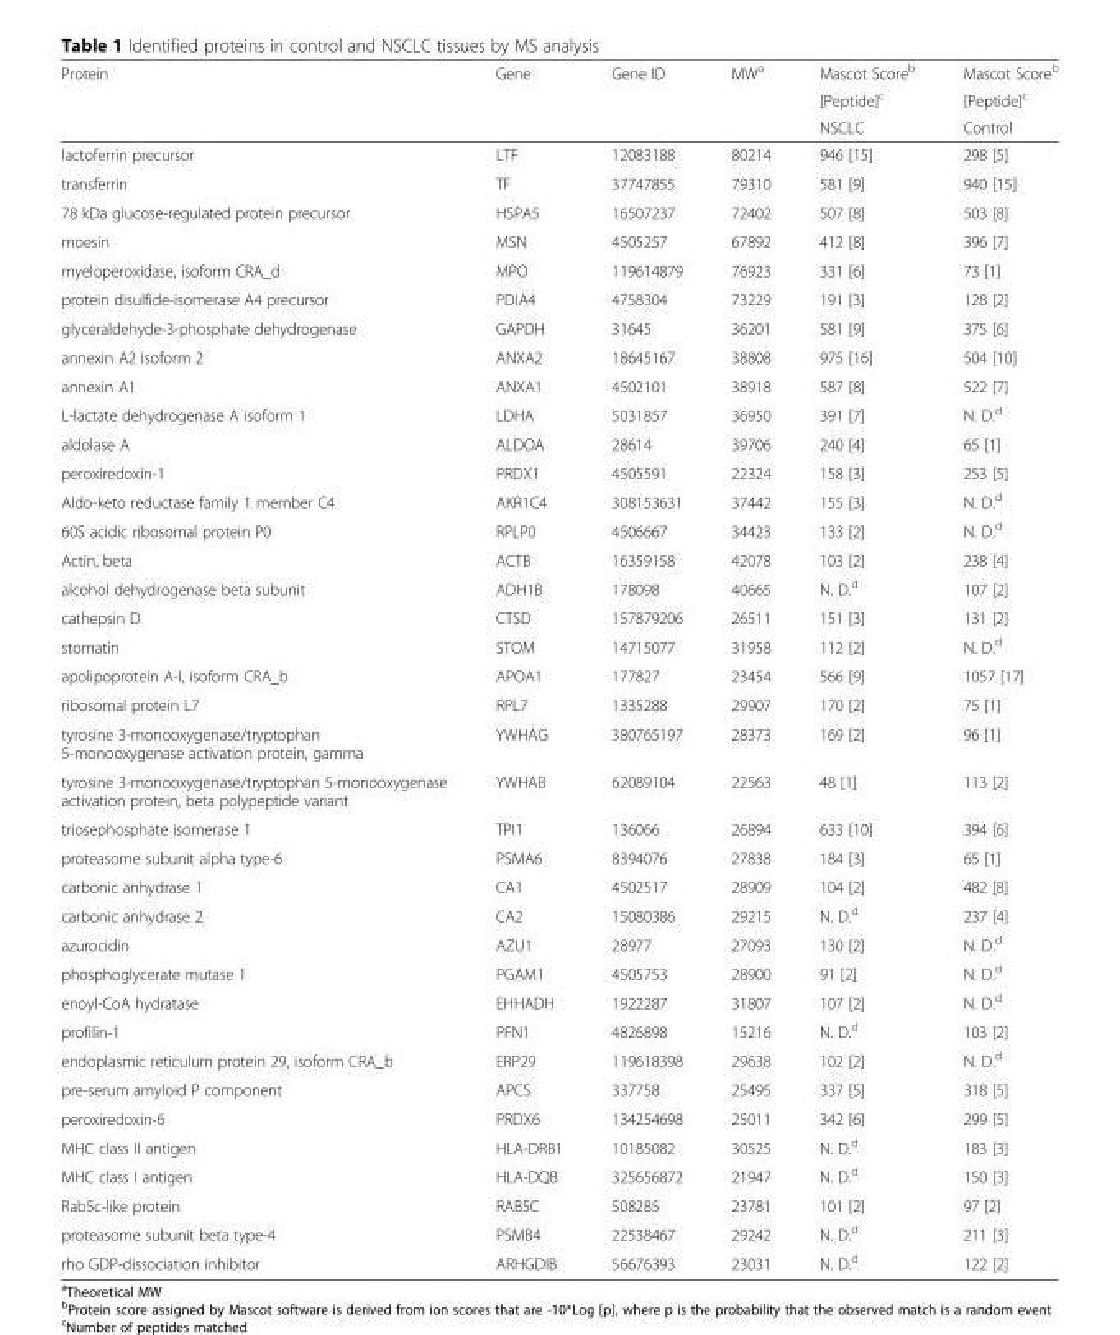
<table><thead><tr><td rowspan="3">Protein</td><td rowspan="3">Gene</td><td rowspan="3">Gene ID</td><td rowspan="3">MW<sup>a</sup></td><td rowspan="3">Mascot Score<sup>b</sup> [Peptide]<sup>c</sup> NSCLC</td><td rowspan="3">Mascot Score<sup>b</sup> [Peptide]<sup>c</sup> Control</td></tr><tr></tr><tr></tr></thead><tbody><tr><td>lactoferrin precursor</td><td>LTF</td><td>12083188</td><td>80214</td><td>946 [15]</td><td>298 [5]</td></tr><tr><td>transferrin</td><td>TF</td><td>37747855</td><td>79310</td><td>581 [9]</td><td>940 [15]</td></tr><tr><td>78 kDa glucose-regulated protein precursor</td><td>HSPA5</td><td>16507237</td><td>72402</td><td>507 [8]</td><td>503 [8]</td></tr><tr><td>moesin</td><td>MSN</td><td>4505257</td><td>67892</td><td>412 [8]</td><td>396 [7]</td></tr><tr><td>myeloperoxidase, isoform CRA_d</td><td>MPO</td><td>119614879</td><td>76923</td><td>331 [6]</td><td>73 [1]</td></tr><tr><td>protein disulfide-isomerase A4 precursor</td><td>PDIA4</td><td>4758304</td><td>73229</td><td>191 [3]</td><td>128 [2]</td></tr><tr><td>glyceraldehyde-3-phosphate dehydrogenase</td><td>GAPDH</td><td>31645</td><td>36201</td><td>581 [9]</td><td>375 [6]</td></tr><tr><td>annexin A2 isoform 2</td><td>ANXA2</td><td>18645167</td><td>38808</td><td>975 [16]</td><td>504 [10]</td></tr><tr><td>annexin A1</td><td>ANXA1</td><td>4502101</td><td>38918</td><td>587 [8]</td><td>522 [7]</td></tr><tr><td>L-lactate dehydrogenase A isoform 1</td><td>LDHA</td><td>5031857</td><td>36950</td><td>391 [7]</td><td>N. D.<sup>d</sup></td></tr><tr><td>aldolase A</td><td>ALDOA</td><td>28614</td><td>39706</td><td>240 [4]</td><td>65 [1]</td></tr><tr><td>peroxiredoxin-1</td><td>PRDX1</td><td>4505591</td><td>22324</td><td>158 [3]</td><td>253 [5]</td></tr><tr><td>Aldo-keto reductase family 1 member C4</td><td>AKR1C4</td><td>308153631</td><td>37442</td><td>155 [3]</td><td>N. D.<sup>d</sup></td></tr><tr><td>60S acidic ribosomal protein P0</td><td>RPLP0</td><td>4506667</td><td>34423</td><td>133 [2]</td><td>N. D.<sup>d</sup></td></tr><tr><td>Actin, beta</td><td>ACTB</td><td>16359158</td><td>42078</td><td>103 [2]</td><td>238 [4]</td></tr><tr><td>alcohol dehydrogenase beta subunit</td><td>ADH1B</td><td>178098</td><td>40665</td><td>N. D.<sup>d</sup></td><td>107 [2]</td></tr><tr><td>cathepsin D</td><td>CTSD</td><td>157879206</td><td>26511</td><td>151 [3]</td><td>131 [2]</td></tr><tr><td>stomatin</td><td>STOM</td><td>14715077</td><td>31958</td><td>112 [2]</td><td>N. D.<sup>d</sup></td></tr><tr><td>apolipoprotein A-I, isoform CRA_b</td><td>APOA1</td><td>177827</td><td>23454</td><td>566 [9]</td><td>1057 [17]</td></tr><tr><td>ribosomal protein L7</td><td>RPL7</td><td>1335288</td><td>29907</td><td>170 [2]</td><td>75 [1]</td></tr><tr><td>tyrosine 3-monooxygenase/tryptophan 5-monooxygenase activation protein, gamma</td><td>YWHAG</td><td>380765197</td><td>28373</td><td>169 [2]</td><td>96 [1]</td></tr><tr><td>tyrosine 3-monooxygenase/tryptophan 5-monooxygenase activation protein, beta polypeptide variant</td><td>YWHAB</td><td>62089104</td><td>22563</td><td>48 [1]</td><td>113 [2]</td></tr><tr><td>triosephosphate isomerase 1</td><td>TPI1</td><td>136066</td><td>26894</td><td>633 [10]</td><td>394 [6]</td></tr><tr><td>proteasome subunit alpha type-6</td><td>PSMA6</td><td>8394076</td><td>27838</td><td>184 [3]</td><td>65 [1]</td></tr><tr><td>carbonic anhydrase 1</td><td>CA1</td><td>4502517</td><td>28909</td><td>104 [2]</td><td>482 [8]</td></tr><tr><td>carbonic anhydrase 2</td><td>CA2</td><td>15080386</td><td>29215</td><td>N. D.<sup>d</sup></td><td>237 [4]</td></tr><tr><td>azurocidin</td><td>AZU1</td><td>28977</td><td>27093</td><td>130 [2]</td><td>N. D.<sup>d</sup></td></tr><tr><td>phosphoglycerate mutase 1</td><td>PGAM1</td><td>4505753</td><td>28900</td><td>91 [2]</td><td>N. D.<sup>d</sup></td></tr><tr><td>enoyl-CoA hydratase</td><td>EHHADH</td><td>1922287</td><td>31807</td><td>107 [2]</td><td>N. D.<sup>d</sup></td></tr><tr><td>profilin-1</td><td>PFN1</td><td>4826898</td><td>15216</td><td>N. D.<sup>d</sup></td><td>103 [2]</td></tr><tr><td>endoplasmic reticulum protein 29, isoform CRA_b</td><td>ERP29</td><td>119618398</td><td>29638</td><td>102 [2]</td><td>N. D.<sup>d</sup></td></tr><tr><td>pre-serum amyloid P component</td><td>APCS</td><td>337758</td><td>25495</td><td>337 [5]</td><td>318 [5]</td></tr><tr><td>peroxiredoxin-6</td><td>PRDX6</td><td>134254698</td><td>25011</td><td>342 [6]</td><td>299 [5]</td></tr><tr><td>MHC class II antigen</td><td>HLA-DRB1</td><td>10185082</td><td>30525</td><td>N. D.<sup>d</sup></td><td>183 [3]</td></tr><tr><td>MHC class I antigen</td><td>HLA-DQB</td><td>325656872</td><td>21947</td><td>N. D.<sup>d</sup></td><td>150 [3]</td></tr><tr><td>Rab5c-like protein</td><td>RAB5C</td><td>508285</td><td>23781</td><td>101 [2]</td><td>97 [2]</td></tr><tr><td>proteasome subunit beta type-4</td><td>PSMB4</td><td>22538467</td><td>29242</td><td>N. D.<sup>d</sup></td><td>211 [3]</td></tr><tr><td>rho GDP-dissociation inhibitor</td><td>ARHGDIB</td><td>56676393</td><td>23031</td><td>N. D.<sup>d</sup></td><td>122 [2]</td></tr></tbody></table>